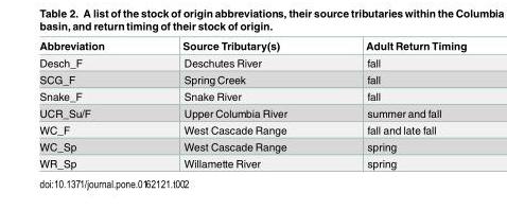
<table><thead><tr><td>Abbreviation</td><td>Source Tributary(s)</td><td>Adult Return Timing</td></tr></thead><tbody><tr><td>Desch_F</td><td>Deschutes River</td><td>fall</td></tr><tr><td>SCG_F</td><td>Spring Creek</td><td>fall</td></tr><tr><td>Snake_F</td><td>Snake River</td><td>fall</td></tr><tr><td>UCR_Su/F</td><td>Upper Columbia River</td><td>summer and fall</td></tr><tr><td>WC_F</td><td>West Cascade Range</td><td>fall and late fall</td></tr><tr><td>WC_Sp</td><td>West Cascade Range</td><td>spring</td></tr><tr><td>WR_Sp</td><td>Willamette River</td><td>spring</td></tr></tbody></table>